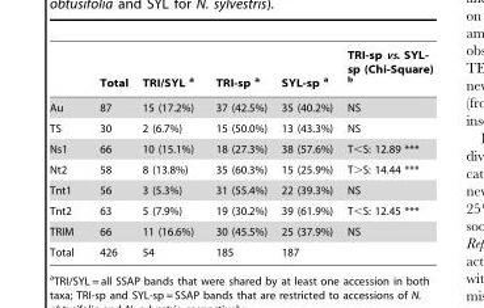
<table><thead><tr><td></td><td>Total</td><td>TRI/SYL a</td><td>TRI-sp a</td><td>SYL-sp a</td><td>TRI-sp vs. SYL- sp (Chi-Square) b</td></tr></thead><tbody><tr><td>Au</td><td>87</td><td>15 (17.2%)</td><td>37 (42.5%)</td><td>35 (40.2%)</td><td>NS</td></tr><tr><td>TS</td><td>30</td><td>2 (6.7%)</td><td>15 (50.0%)</td><td>13 (43.3%)</td><td>NS</td></tr><tr><td>Ns1</td><td>66</td><td>10 (15.1%)</td><td>18 (27.3%)</td><td>38 (57.6%)</td><td>T&lt;S: 12.89 ***</td></tr><tr><td>Nt2</td><td>58</td><td>8 (13.8%)</td><td>35 (60.3%)</td><td>15 (25.9%)</td><td>T&gt;S: 14.44 ***</td></tr><tr><td>Tnt1</td><td>56</td><td>3 (5.3%)</td><td>31 (55.4%)</td><td>22 (39.3%)</td><td>NS</td></tr><tr><td>Tnt2</td><td>63</td><td>5 (7.9%)</td><td>19 (30.2%)</td><td>39 (61.9%)</td><td>T&lt;S: 12.45 ***</td></tr><tr><td>TRIM</td><td>66</td><td>11 (16.6%)</td><td>30 (45.5%)</td><td>25 (37.9%)</td><td>NS</td></tr><tr><td>Total</td><td>426</td><td>54</td><td>185</td><td>187</td><td></td></tr></tbody></table>